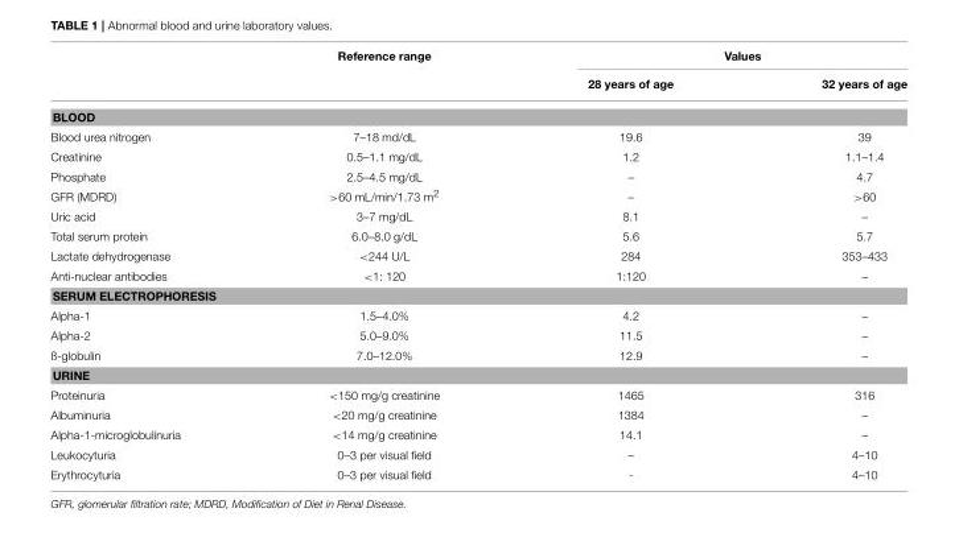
<table><thead><tr><td rowspan="2"></td><td rowspan="2">Reference range</td><td colspan="2">Values</td></tr><tr><td>28 years of age</td><td>32 years of age</td></tr></thead><tbody><tr><td colspan="4">BLOOD</td></tr><tr><td>Blood urea nitrogen</td><td>7–18 md/dL</td><td>19.6</td><td>39</td></tr><tr><td>Creatinine</td><td>0.5–1.1 mg/dL</td><td>1.2</td><td>1.1–1.4</td></tr><tr><td>Phosphate</td><td>2.5–4.5 mg/dL</td><td>–</td><td>4.7</td></tr><tr><td>GFR (MDRD)</td><td>&gt;60 mL/min/1.73 m<sup>2</sup></td><td>–</td><td>&gt;60</td></tr><tr><td>Uric acid</td><td>3–7 mg/dL</td><td>8.1</td><td>–</td></tr><tr><td>Total serum protein</td><td>6.0–8.0 g/dL</td><td>5.6</td><td>5.7</td></tr><tr><td>Lactate dehydrogenase</td><td>&lt;244 U/L</td><td>284</td><td>353–433</td></tr><tr><td>Anti-nuclear antibodies</td><td>&lt;1: 120</td><td>1:120</td><td>–</td></tr><tr><td colspan="4">SERUM ELECTROPHORESIS</td></tr><tr><td>Alpha-1</td><td>1.5–4.0%</td><td>4.2</td><td>–</td></tr><tr><td>Alpha-2</td><td>5.0–9.0%</td><td>11.5</td><td>–</td></tr><tr><td>ß-globulin</td><td>7.0–12.0%</td><td>12.9</td><td>–</td></tr><tr><td colspan="4">URINE</td></tr><tr><td>Proteinuria</td><td>&lt;150 mg/g creatinine</td><td>1465</td><td>316</td></tr><tr><td>Albuminuria</td><td>&lt;20 mg/g creatinine</td><td>1384</td><td>–</td></tr><tr><td>Alpha-1-microglobulinuria</td><td>&lt;14 mg/g creatinine</td><td>14.1</td><td>–</td></tr><tr><td>Leukocyturia</td><td>0–3 per visual field</td><td>–</td><td>4–10</td></tr><tr><td>Erythrocyturia</td><td>0–3 per visual field</td><td>-</td><td>4–10</td></tr></tbody></table>